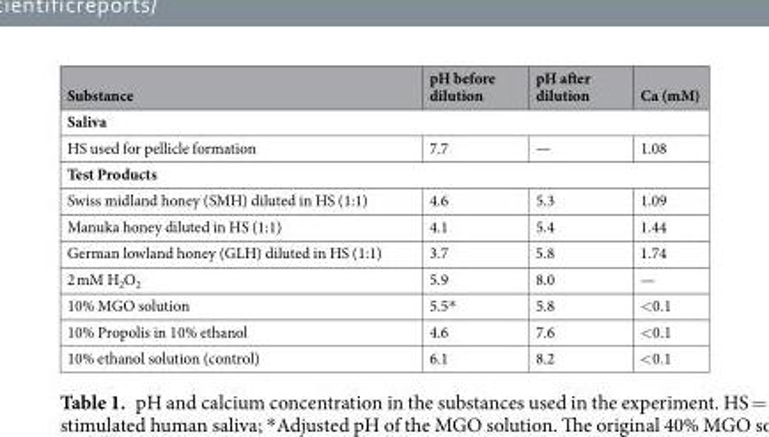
<table><thead><tr><td>Substance</td><td>pH before dilution</td><td>pH after dilution</td><td>Ca (mM)</td></tr></thead><tbody><tr><td colspan="4">Saliva</td></tr><tr><td>HS used for pellicle formation</td><td>7.7</td><td>—</td><td>1.08</td></tr><tr><td colspan="4">Test Products</td></tr><tr><td>Swiss midland honey (SMH) diluted in HS (1:1)</td><td>4.6</td><td>5.3</td><td>1.09</td></tr><tr><td>Manuka honey diluted in HS (1:1)</td><td>4.1</td><td>5.4</td><td>1.44</td></tr><tr><td>German lowland honey (GLH) diluted in HS (1:1)</td><td>3.7</td><td>5.8</td><td>1.74</td></tr><tr><td>2 mM H<sub>2</sub>O<sub>2</sub></td><td>5.9</td><td>8.0</td><td>—</td></tr><tr><td>10% MGO solution</td><td>5.5*</td><td>5.8</td><td>&lt;0.1</td></tr><tr><td>10% Propolis in 10% ethanol</td><td>4.6</td><td>7.6</td><td>&lt;0.1</td></tr><tr><td>10% ethanol solution (control)</td><td>6.1</td><td>8.2</td><td>&lt;0.1</td></tr></tbody></table>